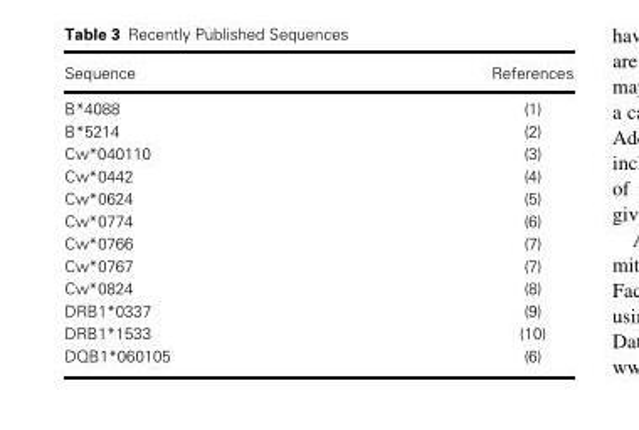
<table><thead><tr><td>Sequence</td><td>References</td></tr></thead><tbody><tr><td>B*4088</td><td>(1)</td></tr><tr><td>B*5214</td><td>(2)</td></tr><tr><td>Cw*040110</td><td>(3)</td></tr><tr><td>Cw*0442</td><td>(4)</td></tr><tr><td>Cw*0624</td><td>(5)</td></tr><tr><td>Cw*0774</td><td>(6)</td></tr><tr><td>Cw*0766</td><td>(7)</td></tr><tr><td>Cw*0767</td><td>(7)</td></tr><tr><td>Cw*0824</td><td>(8)</td></tr><tr><td>DRB1*0337</td><td>(9)</td></tr><tr><td>DRB1*1533</td><td>(10)</td></tr><tr><td>DQB1*060105</td><td>(6)</td></tr></tbody></table>